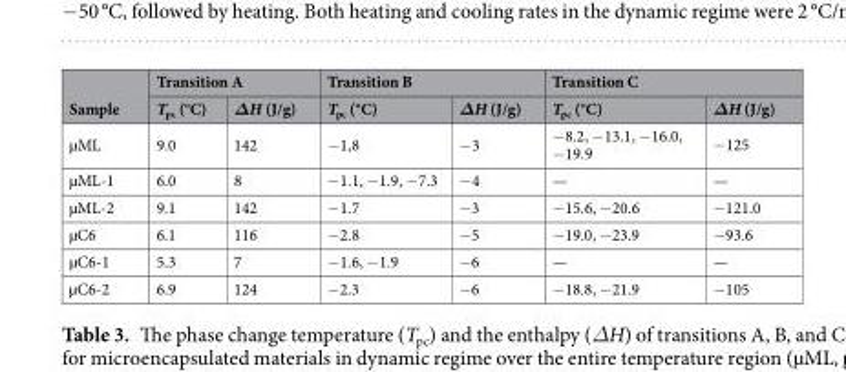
<table><thead><tr><td rowspan="2">Sample</td><td colspan="2">Transition A</td><td colspan="2">Transition B</td><td colspan="2">Transition C</td></tr><tr><td>T<sub>pc</sub> (°C)</td><td>ΔH (J/g)</td><td>T<sub>pc</sub> (°C)</td><td>ΔH (J/g)</td><td>T<sub>pc</sub> (°C)</td><td>ΔH (J/g)</td></tr></thead><tbody><tr><td>µML</td><td>9.0</td><td>142</td><td>−1,8</td><td>−3</td><td>−8.2, −13.1, −16.0, −19.9</td><td>−125</td></tr><tr><td>µML-1</td><td>6.0</td><td>8</td><td>−1.1, −1.9, −7.3</td><td>−4</td><td>—</td><td>—</td></tr><tr><td>µML-2</td><td>9.1</td><td>142</td><td>−1.7</td><td>−3</td><td>−15.6, −20.6</td><td>−121.0</td></tr><tr><td>µC6</td><td>6.1</td><td>116</td><td>−2.8</td><td>−5</td><td>−19.0, −23.9</td><td>−93.6</td></tr><tr><td>µC6-1</td><td>5.3</td><td>7</td><td>−1.6, −1.9</td><td>−6</td><td>—</td><td>—</td></tr><tr><td>µC6-2</td><td>6.9</td><td>124</td><td>−2.3</td><td>−6</td><td>−18.8, −21.9</td><td>−105</td></tr></tbody></table>